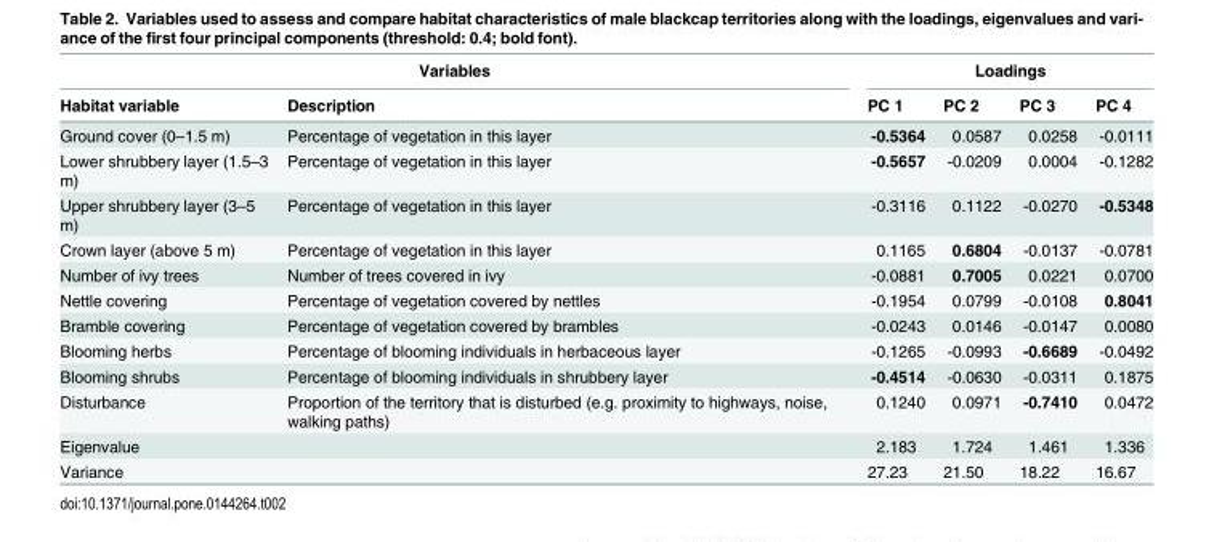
<table><thead><tr><td colspan="2">Variables</td><td colspan="4">Loadings</td></tr><tr><td>Habitat variable</td><td>Description</td><td>PC 1</td><td>PC 2</td><td>PC 3</td><td>PC 4</td></tr></thead><tbody><tr><td>Ground cover (0–1.5 m)</td><td>Percentage of vegetation in this layer</td><td>-0.5364</td><td>0.0587</td><td>0.0258</td><td>-0.0111</td></tr><tr><td>Lower shrubbery layer (1.5–3 m)</td><td>Percentage of vegetation in this layer</td><td>-0.5657</td><td>-0.0209</td><td>0.0004</td><td>-0.1282</td></tr><tr><td>Upper shrubbery layer (3–5 m)</td><td>Percentage of vegetation in this layer</td><td>-0.3116</td><td>0.1122</td><td>-0.0270</td><td>-0.5348</td></tr><tr><td>Crown layer (above 5 m)</td><td>Percentage of vegetation in this layer</td><td>0.1165</td><td>0.6804</td><td>-0.0137</td><td>-0.0781</td></tr><tr><td>Number of ivy trees</td><td>Number of trees covered in ivy</td><td>-0.0881</td><td>0.7005</td><td>0.0221</td><td>0.0700</td></tr><tr><td>Nettle covering</td><td>Percentage of vegetation covered by nettles</td><td>-0.1954</td><td>0.0799</td><td>-0.0108</td><td>0.8041</td></tr><tr><td>Bramble covering</td><td>Percentage of vegetation covered by brambles</td><td>-0.0243</td><td>0.0146</td><td>-0.0147</td><td>0.0080</td></tr><tr><td>Blooming herbs</td><td>Percentage of blooming individuals in herbaceous layer</td><td>-0.1265</td><td>-0.0993</td><td>-0.6689</td><td>-0.0492</td></tr><tr><td>Blooming shrubs</td><td>Percentage of blooming individuals in shrubbery layer</td><td>-0.4514</td><td>-0.0630</td><td>-0.0311</td><td>0.1875</td></tr><tr><td>Disturbance</td><td>Proportion of the territory that is disturbed (e.g. proximity to highways, noise, walking paths)</td><td>0.1240</td><td>0.0971</td><td>-0.7410</td><td>0.0472</td></tr><tr><td colspan="2">Eigenvalue</td><td>2.183</td><td>1.724</td><td>1.461</td><td>1.336</td></tr><tr><td colspan="2">Variance</td><td>27.23</td><td>21.50</td><td>18.22</td><td>16.67</td></tr></tbody></table>